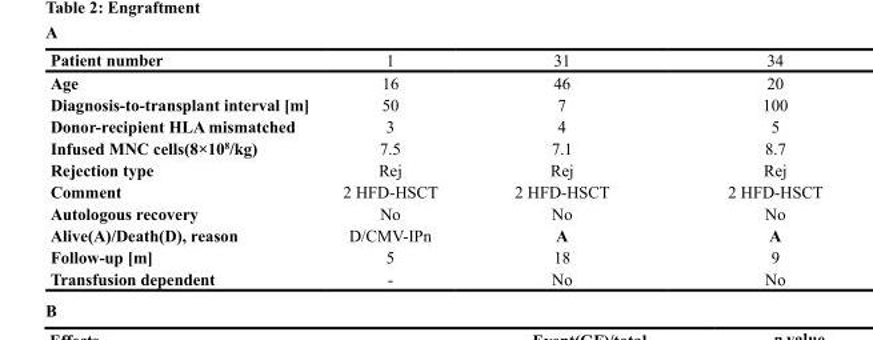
<table><thead><tr><td>Patient number</td><td>1</td><td>31</td><td>34</td></tr></thead><tbody><tr><td>Age</td><td>16</td><td>46</td><td>20</td></tr><tr><td>Diagnosis-to-transplant interval [m]</td><td>50</td><td>7</td><td>100</td></tr><tr><td>Donor-recipient HLA mismatched</td><td>3</td><td>4</td><td>5</td></tr><tr><td>Infused MNC cells(8×10<sup>8</sup>/kg)</td><td>7.5</td><td>7.1</td><td>8.7</td></tr><tr><td>Rejection type</td><td>Rej</td><td>Rej</td><td>Rej</td></tr><tr><td>Comment</td><td>2 HFD-HSCT</td><td>2 HFD-HSCT</td><td>2 HFD-HSCT</td></tr><tr><td>Autologous recovery</td><td>No</td><td>No</td><td>No</td></tr><tr><td>Alive(A)/Death(D), reason</td><td>D/CMV-IPn</td><td>A</td><td>A</td></tr><tr><td>Follow-up [m]</td><td>5</td><td>18</td><td>9</td></tr><tr><td>Transfusion dependent</td><td>-</td><td>No</td><td>No</td></tr></tbody></table>